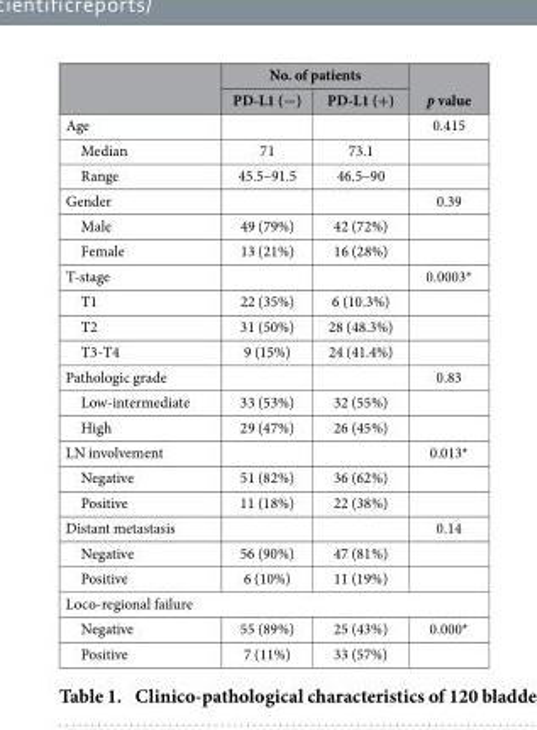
<table><thead><tr><td rowspan="2"></td><td colspan="2">No. of patients</td><td rowspan="2">p value</td></tr><tr><td>PD-L1 (−)</td><td>PD-L1 (+)</td></tr></thead><tbody><tr><td>Age</td><td></td><td></td><td>0.415</td></tr><tr><td>Median</td><td>71</td><td>73.1</td><td></td></tr><tr><td>Range</td><td>45.5–91.5</td><td>46.5–90</td><td></td></tr><tr><td>Gender</td><td></td><td></td><td>0.39</td></tr><tr><td>Male</td><td>49 (79%)</td><td>42 (72%)</td><td></td></tr><tr><td>Female</td><td>13 (21%)</td><td>16 (28%)</td><td></td></tr><tr><td>T-stage</td><td></td><td></td><td>0.0003*</td></tr><tr><td>T1</td><td>22 (35%)</td><td>6 (10.3%)</td><td></td></tr><tr><td>T2</td><td>31 (50%)</td><td>28 (48.3%)</td><td></td></tr><tr><td>T3-T4</td><td>9 (15%)</td><td>24 (41.4%)</td><td></td></tr><tr><td>Pathologic grade</td><td></td><td></td><td>0.83</td></tr><tr><td>Low-intermediate</td><td>33 (53%)</td><td>32 (55%)</td><td></td></tr><tr><td>High</td><td>29 (47%)</td><td>26 (45%)</td><td></td></tr><tr><td>LN involvement</td><td></td><td></td><td>0.013*</td></tr><tr><td>Negative</td><td>51 (82%)</td><td>36 (62%)</td><td></td></tr><tr><td>Positive</td><td>11 (18%)</td><td>22 (38%)</td><td></td></tr><tr><td>Distant metastasis</td><td></td><td></td><td>0.14</td></tr><tr><td>Negative</td><td>56 (90%)</td><td>47 (81%)</td><td></td></tr><tr><td>Positive</td><td>6 (10%)</td><td>11 (19%)</td><td></td></tr><tr><td colspan="4">Loco-regional failure</td></tr><tr><td>Negative</td><td>55 (89%)</td><td>25 (43%)</td><td>0.000*</td></tr><tr><td>Positive</td><td>7 (11%)</td><td>33 (57%)</td><td></td></tr></tbody></table>